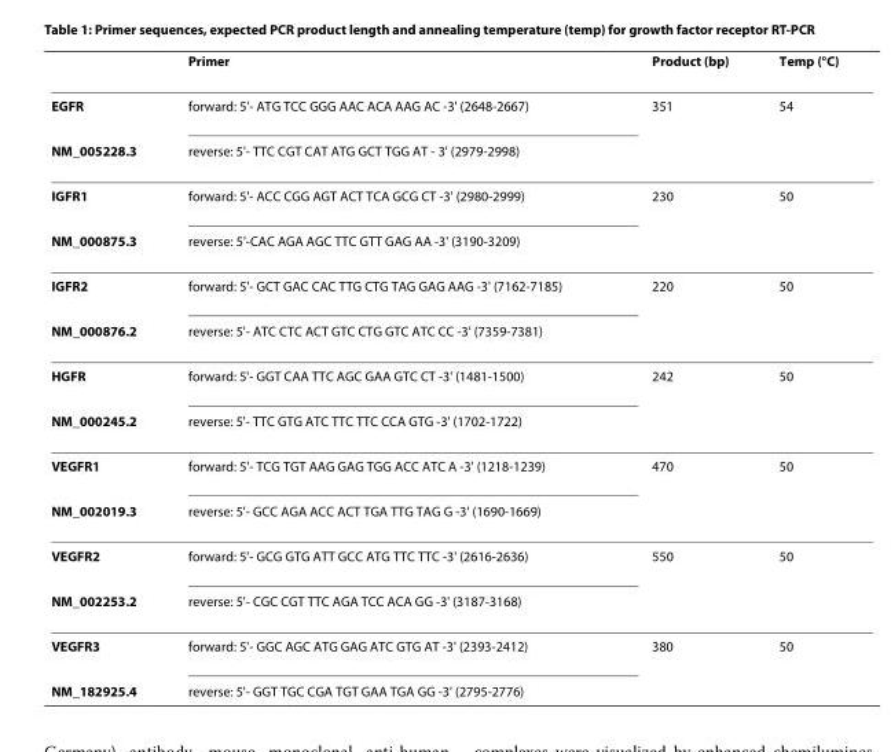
<table><thead><tr><td></td><td>Primer</td><td>Product (bp)</td><td>Temp (°C)</td></tr></thead><tbody><tr><td>EGFR</td><td>forward: 5&#x27;- ATG TCC GGG AAC ACA AAG AC -3&#x27; (2648-2667)</td><td>351</td><td>54</td></tr><tr><td>NM_005228.3</td><td>reverse: 5&#x27;- TTC CGT CAT ATG GCT TGG AT - 3&#x27; (2979-2998)</td><td></td><td></td></tr><tr><td>IGFR1</td><td>forward: 5&#x27;- ACC CGG AGT ACT TCA GCG CT -3&#x27; (2980-2999)</td><td>230</td><td>50</td></tr><tr><td>NM_000875.3</td><td>reverse: 5&#x27;-CAC AGA AGC TTC GTT GAG AA -3&#x27; (3190-3209)</td><td></td><td></td></tr><tr><td>IGFR2</td><td>forward: 5&#x27;- GCT GAC CAC TTG CTG TAG GAG AAG -3&#x27; (7162-7185)</td><td>220</td><td>50</td></tr><tr><td>NM_000876.2</td><td>reverse: 5&#x27;- ATC CTC ACT GTC CTG GTC ATC CC -3&#x27; (7359-7381)</td><td></td><td></td></tr><tr><td>HGFR</td><td>forward: 5&#x27;- GGT CAA TTC AGC GAA GTC CT -3&#x27; (1481-1500)</td><td>242</td><td>50</td></tr><tr><td>NM_000245.2</td><td>reverse: 5&#x27;- TTC GTG ATC TTC TTC CCA GTG -3&#x27; (1702-1722)</td><td></td><td></td></tr><tr><td>VEGFR1</td><td>forward: 5&#x27;- TCG TGT AAG GAG TGG ACC ATC A -3&#x27; (1218-1239)</td><td>470</td><td>50</td></tr><tr><td>NM_002019.3</td><td>reverse: 5&#x27;- GCC AGA ACC ACT TGA TTG TAG G -3&#x27; (1690-1669)</td><td></td><td></td></tr><tr><td>VEGFR2</td><td>forward: 5&#x27;- GCG GTG ATT GCC ATG TTC TTC -3&#x27; (2616-2636)</td><td>550</td><td>50</td></tr><tr><td>NM_002253.2</td><td>reverse: 5&#x27;- CGC CGT TTC AGA TCC ACA GG -3&#x27; (3187-3168)</td><td></td><td></td></tr><tr><td>VEGFR3</td><td>forward: 5&#x27;- GGC AGC ATG GAG ATC GTG AT -3&#x27; (2393-2412)</td><td>380</td><td>50</td></tr><tr><td>NM_182925.4</td><td>reverse: 5&#x27;- GGT TGC CGA TGT GAA TGA GG -3&#x27; (2795-2776)</td><td></td><td></td></tr></tbody></table>